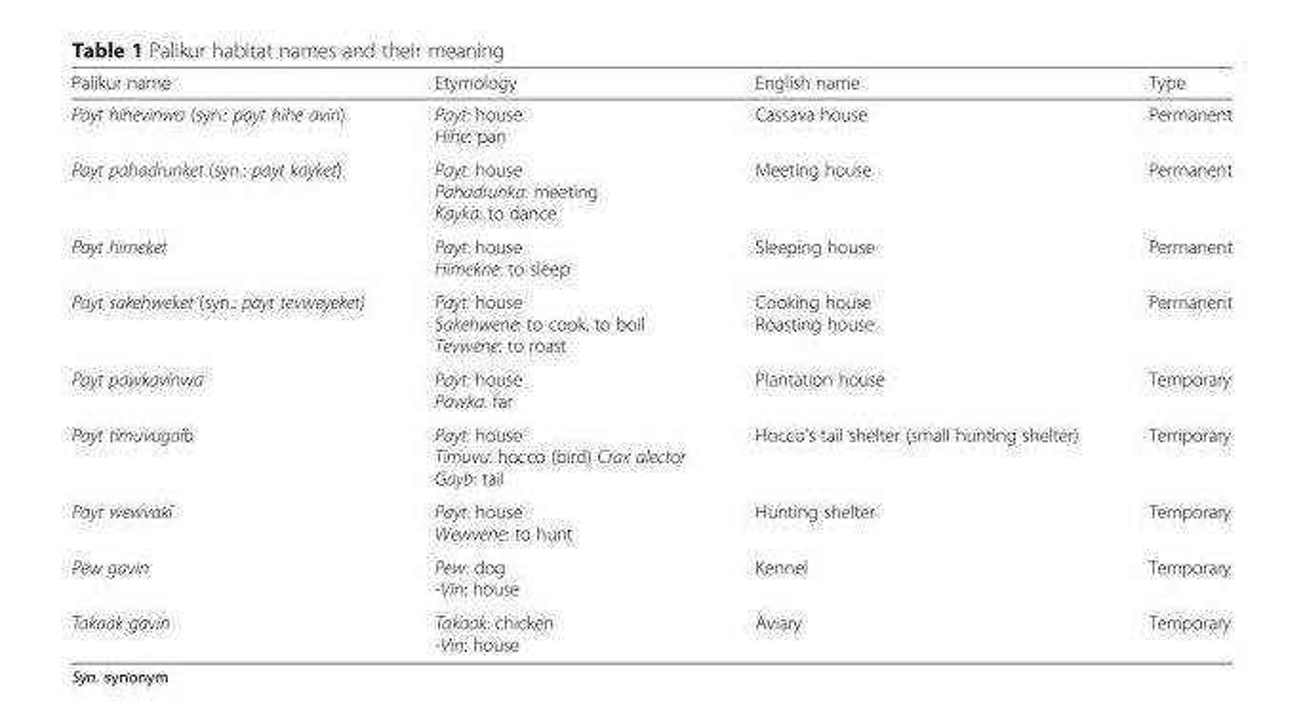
<table><thead><tr><td>Palikur name</td><td>Etymology</td><td>English name</td><td>Type</td></tr></thead><tbody><tr><td>Payt hihevinwa (syn.: payt hihe avin)</td><td>Payt: house Hihe: pan</td><td>Cassava house</td><td>Permanent</td></tr><tr><td>Payt pahadrunket (syn.: payt kayket)</td><td>Payt: house Pahadrunka: meeting Kayka: to dance</td><td>Meeting house</td><td>Permanent</td></tr><tr><td>Payt himeket</td><td>Payt: house Himekne: to sleep</td><td>Sleeping house</td><td>Permanent</td></tr><tr><td>Payt sakehweket (syn.: payt tevweyeket)</td><td>Payt: house Sakehwene: to cook, to boil Tevwene: to roast</td><td>Cooking house Roasting house</td><td>Permanent</td></tr><tr><td>Payt pawkavinwa</td><td>Payt: house Pawka: far</td><td>Plantation house</td><td>Temporary</td></tr><tr><td>Payt timuvugaib</td><td>Payt: house Timuvu: hocco (bird) Crax alector Gayb: tail</td><td>Hocco’s tail shelter (small hunting shelter)</td><td>Temporary</td></tr><tr><td>Payt wewvaki</td><td>Payt: house Wewvene: to hunt</td><td>Hunting shelter</td><td>Temporary</td></tr><tr><td>Pew gavin</td><td>Pew: dog -Vin: house</td><td>Kennel</td><td>Temporary</td></tr><tr><td>Takaak gavin</td><td>Takaak: chicken -Vin: house</td><td>Aviary</td><td>Temporary</td></tr></tbody></table>